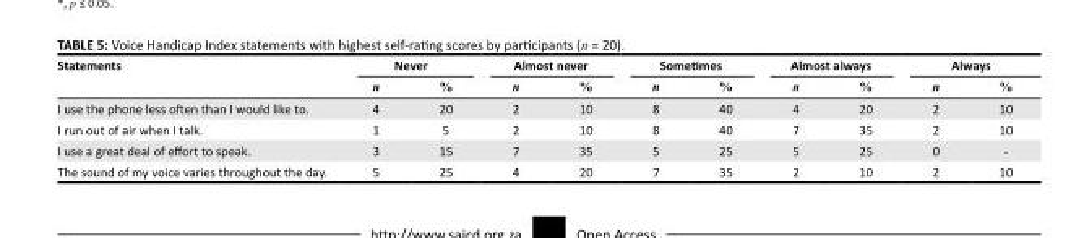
<table><thead><tr><td rowspan="2">Statements</td><td colspan="2">Never</td><td colspan="2">Almost never</td><td colspan="2">Sometimes</td><td colspan="2">Almost always</td><td colspan="2">Always</td></tr><tr><td>n</td><td>%</td><td>n</td><td>%</td><td>n</td><td>%</td><td>n</td><td>%</td><td>n</td><td>%</td></tr></thead><tbody><tr><td>I use the phone less often than I would like to.</td><td>4</td><td>20</td><td>2</td><td>10</td><td>8</td><td>40</td><td>4</td><td>20</td><td>2</td><td>10</td></tr><tr><td>I run out of air when I talk.</td><td>1</td><td>5</td><td>2</td><td>10</td><td>8</td><td>40</td><td>7</td><td>35</td><td>2</td><td>10</td></tr><tr><td>I use a great deal of effort to speak.</td><td>3</td><td>15</td><td>7</td><td>35</td><td>5</td><td>25</td><td>5</td><td>25</td><td>0</td><td>-</td></tr><tr><td>The sound of my voice varies throughout the day.</td><td>5</td><td>25</td><td>4</td><td>20</td><td>7</td><td>35</td><td>2</td><td>10</td><td>2</td><td>10</td></tr></tbody></table>